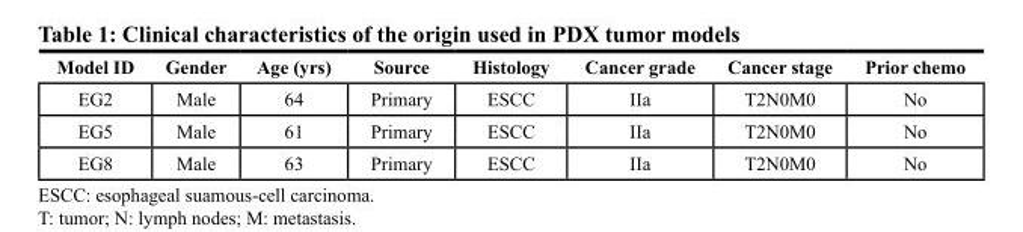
<table><thead><tr><td>Model ID</td><td>Gender</td><td>Age (yrs)</td><td>Source</td><td>Histology</td><td>Cancer grade</td><td>Cancer stage</td><td>Prior chemo</td></tr></thead><tbody><tr><td>EG2</td><td>Male</td><td>64</td><td>Primary</td><td>ESCC</td><td>IIa</td><td>T2N0M0</td><td>No</td></tr><tr><td>EG5</td><td>Male</td><td>61</td><td>Primary</td><td>ESCC</td><td>IIa</td><td>T2N0M0</td><td>No</td></tr><tr><td>EG8</td><td>Male</td><td>63</td><td>Primary</td><td>ESCC</td><td>IIa</td><td>T2N0M0</td><td>No</td></tr></tbody></table>